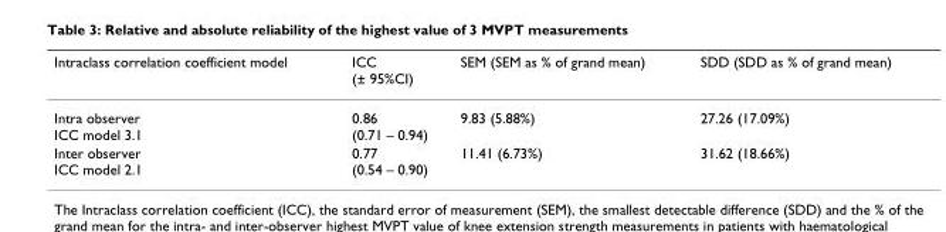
<table><thead><tr><td>Intraclass correlation coefficient model</td><td>ICC (± 95%CI)</td><td>SEM (SEM as % of grand mean)</td><td>SDD (SDD as % of grand mean)</td></tr></thead><tbody><tr><td>Intra observer ICC model 3.1</td><td>0.86 (0.71 – 0.94)</td><td>9.83 (5.88%)</td><td>27.26 (17.09%)</td></tr><tr><td>Inter observer ICC model 2.1</td><td>0.77 (0.54 – 0.90)</td><td>11.41 (6.73%)</td><td>31.62 (18.66%)</td></tr></tbody></table>